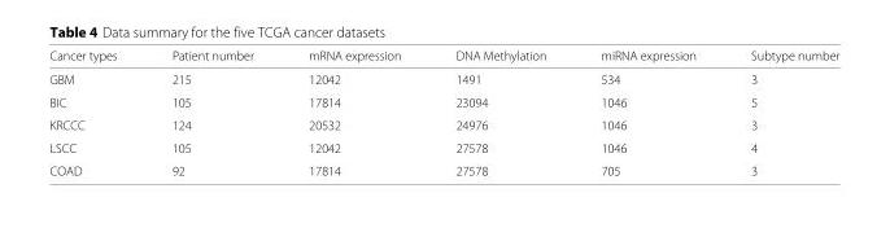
<table><thead><tr><td>Cancer types</td><td>Patient number</td><td>mRNA expression</td><td>DNA Methylation</td><td>miRNA expression</td><td>Subtype number</td></tr></thead><tbody><tr><td>GBM</td><td>215</td><td>12042</td><td>1491</td><td>534</td><td>3</td></tr><tr><td>BIC</td><td>105</td><td>17814</td><td>23094</td><td>1046</td><td>5</td></tr><tr><td>KRCCC</td><td>124</td><td>20532</td><td>24976</td><td>1046</td><td>3</td></tr><tr><td>LSCC</td><td>105</td><td>12042</td><td>27578</td><td>1046</td><td>4</td></tr><tr><td>COAD</td><td>92</td><td>17814</td><td>27578</td><td>705</td><td>3</td></tr></tbody></table>